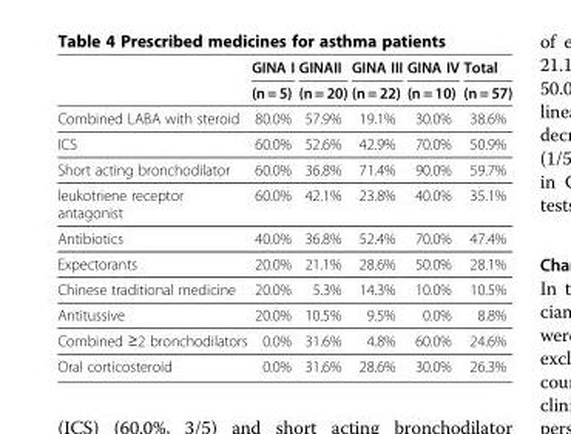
<table><thead><tr><td rowspan="2"></td><td rowspan="2">GINA I (n = 5)</td><td rowspan="2">GINAII (n = 20)</td><td rowspan="2">GINA III (n = 22)</td><td rowspan="2">GINA IV (n = 10)</td><td rowspan="2">Total (n = 57)</td></tr><tr></tr></thead><tbody><tr><td>Combined LABA with steroid</td><td>80.0%</td><td>57.9%</td><td>19.1%</td><td>30.0%</td><td>38.6%</td></tr><tr><td>ICS</td><td>60.0%</td><td>52.6%</td><td>42.9%</td><td>70.0%</td><td>50.9%</td></tr><tr><td>Short acting bronchodilator</td><td>60.0%</td><td>36.8%</td><td>71.4%</td><td>90.0%</td><td>59.7%</td></tr><tr><td>leukotriene receptor antagonist</td><td>60.0%</td><td>42.1%</td><td>23.8%</td><td>40.0%</td><td>35.1%</td></tr><tr><td>Antibiotics</td><td>40.0%</td><td>36.8%</td><td>52.4%</td><td>70.0%</td><td>47.4%</td></tr><tr><td>Expectorants</td><td>20.0%</td><td>21.1%</td><td>28.6%</td><td>50.0%</td><td>28.1%</td></tr><tr><td>Chinese traditional medicine</td><td>20.0%</td><td>5.3%</td><td>14.3%</td><td>10.0%</td><td>10.5%</td></tr><tr><td>Antitussive</td><td>20.0%</td><td>10.5%</td><td>9.5%</td><td>0.0%</td><td>8.8%</td></tr><tr><td>Combined ≥2 bronchodilators</td><td>0.0%</td><td>31.6%</td><td>4.8%</td><td>60.0%</td><td>24.6%</td></tr><tr><td>Oral corticosteroid</td><td>0.0%</td><td>31.6%</td><td>28.6%</td><td>30.0%</td><td>26.3%</td></tr></tbody></table>